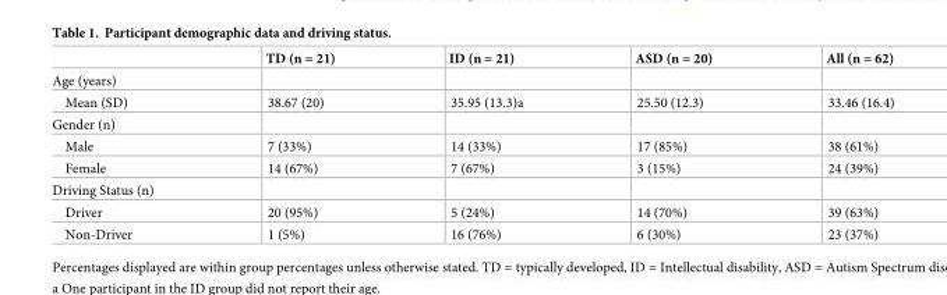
<table><thead><tr><td></td><td>TD (n = 21)</td><td>ID (n = 21)</td><td>ASD (n = 20)</td><td>All (n = 62)</td></tr></thead><tbody><tr><td colspan="5">Age (years)</td></tr><tr><td>Mean (SD)</td><td>38.67 (20)</td><td>35.95 (13.3)<sup>a</sup></td><td>25.50 (12.3)</td><td>33.46 (16.4)</td></tr><tr><td colspan="5">Gender (n)</td></tr><tr><td>Male</td><td>7 (33%)</td><td>14 (33%)</td><td>17 (85%)</td><td>38 (61%)</td></tr><tr><td>Female</td><td>14 (67%)</td><td>7 (67%)</td><td>3 (15%)</td><td>24 (39%)</td></tr><tr><td colspan="5">Driving Status (n)</td></tr><tr><td>Driver</td><td>20 (95%)</td><td>5 (24%)</td><td>14 (70%)</td><td>39 (63%)</td></tr><tr><td>Non-Driver</td><td>1 (5%)</td><td>16 (76%)</td><td>6 (30%)</td><td>23 (37%)</td></tr></tbody></table>